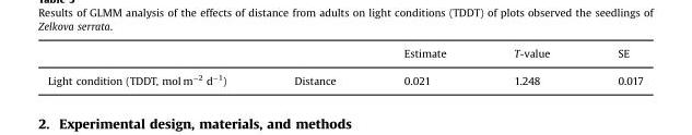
<table><thead><tr><td></td><td></td><td>Estimate</td><td>T-value</td><td>SE</td></tr></thead><tbody><tr><td>Light condition (TDDT, mol m<sup>−2</sup> d<sup>−1</sup>)</td><td>Distance</td><td>0.021</td><td>1.248</td><td>0.017</td></tr></tbody></table>